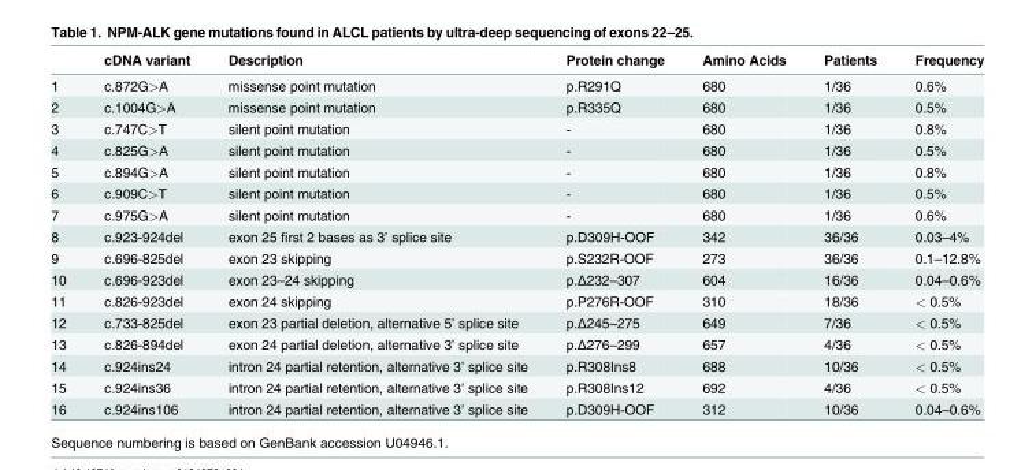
<table><thead><tr><td></td><td>cDNA variant</td><td>Description</td><td>Protein change</td><td>Amino Acids</td><td>Patients</td><td>Frequency</td></tr></thead><tbody><tr><td>1</td><td>c.872G&gt;A</td><td>missense point mutation</td><td>p.R291Q</td><td>680</td><td>1/36</td><td>0.6%</td></tr><tr><td>2</td><td>c.1004G&gt;A</td><td>missense point mutation</td><td>p.R335Q</td><td>680</td><td>1/36</td><td>0.5%</td></tr><tr><td>3</td><td>c.747C&gt;T</td><td>silent point mutation</td><td>-</td><td>680</td><td>1/36</td><td>0.8%</td></tr><tr><td>4</td><td>c.825G&gt;A</td><td>silent point mutation</td><td>-</td><td>680</td><td>1/36</td><td>0.5%</td></tr><tr><td>5</td><td>c.894G&gt;A</td><td>silent point mutation</td><td>-</td><td>680</td><td>1/36</td><td>0.8%</td></tr><tr><td>6</td><td>c.909C&gt;T</td><td>silent point mutation</td><td>-</td><td>680</td><td>1/36</td><td>0.5%</td></tr><tr><td>7</td><td>c.975G&gt;A</td><td>silent point mutation</td><td>-</td><td>680</td><td>1/36</td><td>0.6%</td></tr><tr><td>8</td><td>c.923-924del</td><td>exon 25 first 2 bases as 3’ splice site</td><td>p.D309H-OOF</td><td>342</td><td>36/36</td><td>0.03–4%</td></tr><tr><td>9</td><td>c.696-825del</td><td>exon 23 skipping</td><td>p.S232R-OOF</td><td>273</td><td>36/36</td><td>0.1–12.8%</td></tr><tr><td>10</td><td>c.696-923del</td><td>exon 23–24 skipping</td><td>p.Δ232–307</td><td>604</td><td>16/36</td><td>0.04–0.6%</td></tr><tr><td>11</td><td>c.826-923del</td><td>exon 24 skipping</td><td>p.P276R-OOF</td><td>310</td><td>18/36</td><td>&lt; 0.5%</td></tr><tr><td>12</td><td>c.733-825del</td><td>exon 23 partial deletion, alternative 5’ splice site</td><td>p.Δ245–275</td><td>649</td><td>7/36</td><td>&lt; 0.5%</td></tr><tr><td>13</td><td>c.826-894del</td><td>exon 24 partial deletion, alternative 3’ splice site</td><td>p.Δ276–299</td><td>657</td><td>4/36</td><td>&lt; 0.5%</td></tr><tr><td>14</td><td>c.924ins24</td><td>intron 24 partial retention, alternative 3’ splice site</td><td>p.R308Ins8</td><td>688</td><td>10/36</td><td>&lt; 0.5%</td></tr><tr><td>15</td><td>c.924ins36</td><td>intron 24 partial retention, alternative 3’ splice site</td><td>p.R308Ins12</td><td>692</td><td>4/36</td><td>&lt; 0.5%</td></tr><tr><td>16</td><td>c.924ins106</td><td>intron 24 partial retention, alternative 3’ splice site</td><td>p.D309H-OOF</td><td>312</td><td>10/36</td><td>0.04–0.6%</td></tr></tbody></table>